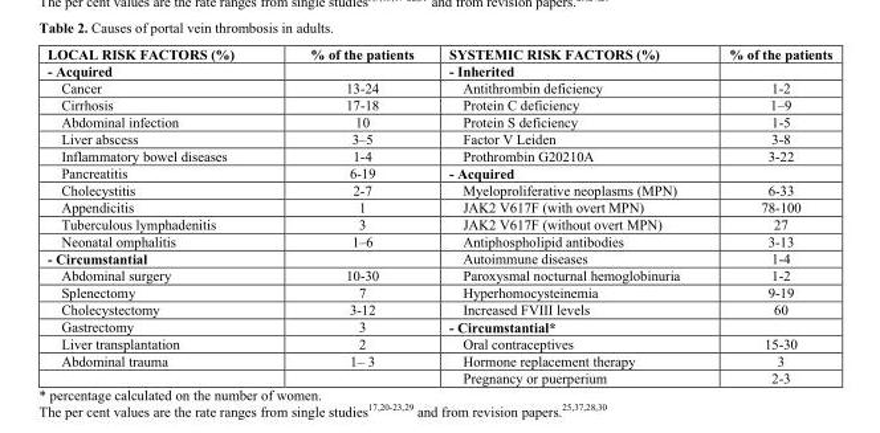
<table><thead><tr><td>LOCAL RISK FACTORS (%)</td><td>% of the patients</td><td>SYSTEMIC RISK FACTORS (%)</td><td>% of the patients</td></tr></thead><tbody><tr><td>- Acquired</td><td></td><td>- Inherited</td><td></td></tr><tr><td>Cancer</td><td>13-24</td><td>Antithrombin deficiency</td><td>1-2</td></tr><tr><td>Cirrhosis</td><td>17-18</td><td>Protein C deficiency</td><td>1–9</td></tr><tr><td>Abdominal infection</td><td>10</td><td>Protein S deficiency</td><td>1-5</td></tr><tr><td>Liver abscess</td><td>3–5</td><td>Factor V Leiden</td><td>3-8</td></tr><tr><td>Inflammatory bowel diseases</td><td>1-4</td><td>Prothrombin G20210A</td><td>3-22</td></tr><tr><td>Pancreatitis</td><td>6-19</td><td>- Acquired</td><td></td></tr><tr><td>Cholecystitis</td><td>2-7</td><td>Myeloproliferative neoplasms (MPN)</td><td>6-33</td></tr><tr><td>Appendicitis</td><td>1</td><td>JAK2 V617F (with overt MPN)</td><td>78-100</td></tr><tr><td>Tuberculous lymphadenitis</td><td>3</td><td>JAK2 V617F (without overt MPN)</td><td>27</td></tr><tr><td>Neonatal omphalitis</td><td>1–6</td><td>Antiphospholipid antibodies</td><td>3-13</td></tr><tr><td>- Circumstantial</td><td></td><td>Autoimmune diseases</td><td>1-4</td></tr><tr><td>Abdominal surgery</td><td>10-30</td><td>Paroxysmal nocturnal hemoglobinuria</td><td>1-2</td></tr><tr><td>Splenectomy</td><td>7</td><td>Hyperhomocysteinemia</td><td>9-19</td></tr><tr><td>Cholecystectomy</td><td>3-12</td><td>Increased FVIII levels</td><td>60</td></tr><tr><td>Gastrectomy</td><td>3</td><td>- Circumstantial*</td><td></td></tr><tr><td>Liver transplantation</td><td>2</td><td>Oral contraceptives</td><td>15-30</td></tr><tr><td rowspan="2">Abdominal trauma</td><td>1– 3</td><td>Hormone replacement therapy</td><td>3</td></tr><tr><td></td><td>Pregnancy or puerperium</td><td>2-3</td></tr></tbody></table>